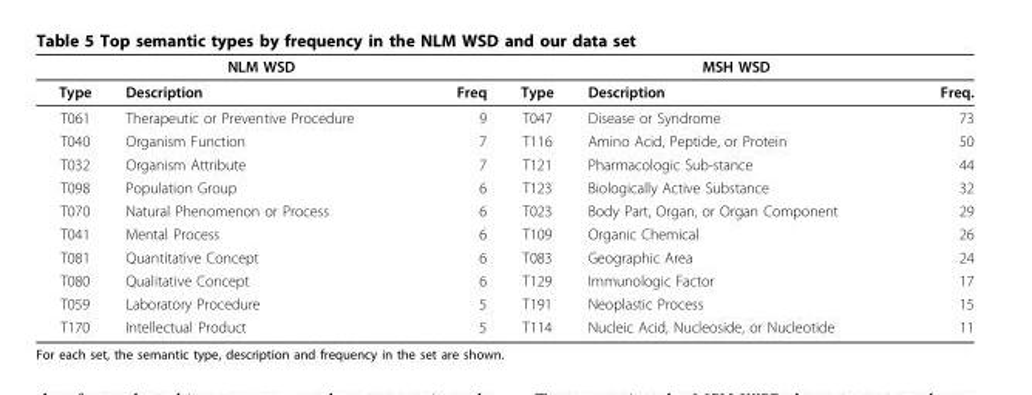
<table><thead><tr><td colspan="3">NLM WSD</td><td colspan="3">MSH WSD</td></tr><tr><td>Type</td><td>Description</td><td>Freq</td><td>Type</td><td>Description</td><td>Freq.</td></tr></thead><tbody><tr><td>T061</td><td>Therapeutic or Preventive Procedure</td><td>9</td><td>T047</td><td>Disease or Syndrome</td><td>73</td></tr><tr><td>T040</td><td>Organism Function</td><td>7</td><td>T116</td><td>Amino Acid, Peptide, or Protein</td><td>50</td></tr><tr><td>T032</td><td>Organism Attribute</td><td>7</td><td>T121</td><td>Pharmacologic Sub-stance</td><td>44</td></tr><tr><td>T098</td><td>Population Group</td><td>6</td><td>T123</td><td>Biologically Active Substance</td><td>32</td></tr><tr><td>T070</td><td>Natural Phenomenon or Process</td><td>6</td><td>T023</td><td>Body Part, Organ, or Organ Component</td><td>29</td></tr><tr><td>T041</td><td>Mental Process</td><td>6</td><td>T109</td><td>Organic Chemical</td><td>26</td></tr><tr><td>T081</td><td>Quantitative Concept</td><td>6</td><td>T083</td><td>Geographic Area</td><td>24</td></tr><tr><td>T080</td><td>Qualitative Concept</td><td>6</td><td>T129</td><td>Immunologic Factor</td><td>17</td></tr><tr><td>T059</td><td>Laboratory Procedure</td><td>5</td><td>T191</td><td>Neoplastic Process</td><td>15</td></tr><tr><td>T170</td><td>Intellectual Product</td><td>5</td><td>T114</td><td>Nucleic Acid, Nucleoside, or Nucleotide</td><td>11</td></tr></tbody></table>